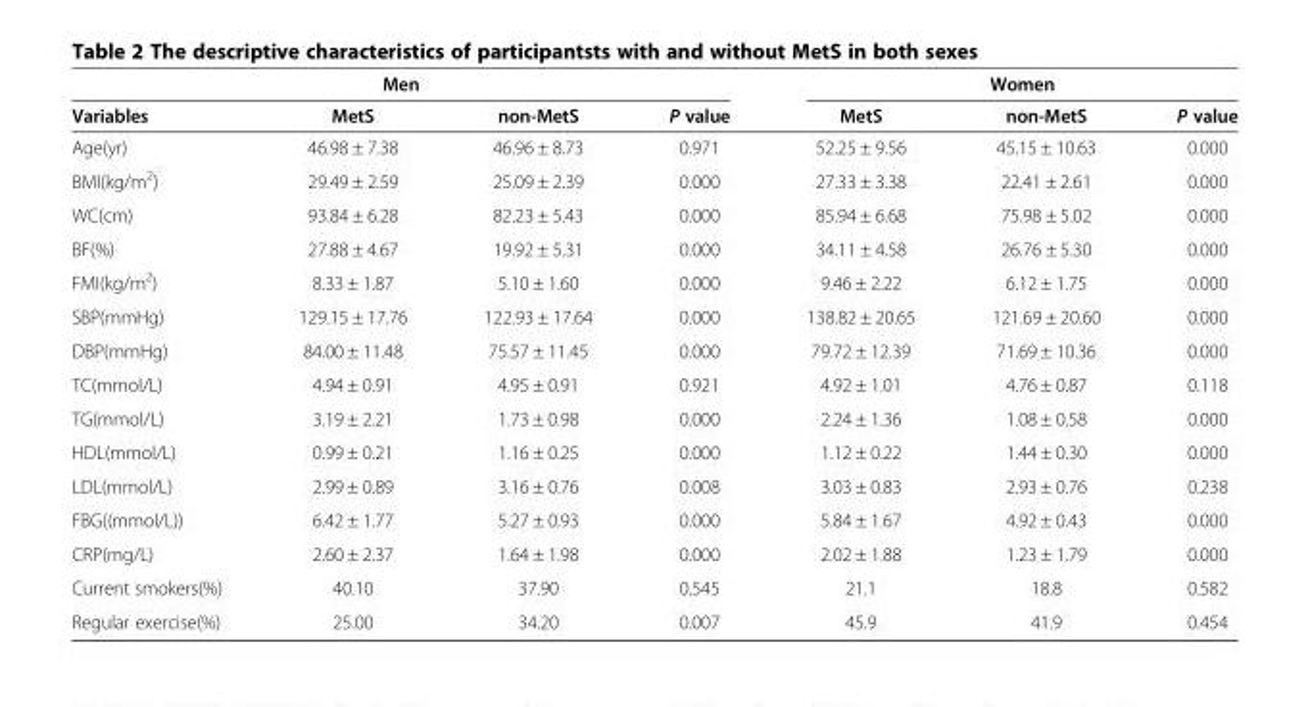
<table><thead><tr><td colspan="4">Men</td><td colspan="3">Women</td></tr><tr><td>Variables</td><td>MetS</td><td>non-MetS</td><td>P value</td><td>MetS</td><td>non-MetS</td><td>P value</td></tr></thead><tbody><tr><td>Age(yr)</td><td>46.98 ± 7.38</td><td>46.96 ± 8.73</td><td>0.971</td><td>52.25 ± 9.56</td><td>45.15 ± 10.63</td><td>0.000</td></tr><tr><td>BMI(kg/m<sup>2</sup>)</td><td>29.49 ± 2.59</td><td>25.09 ± 2.39</td><td>0.000</td><td>27.33 ± 3.38</td><td>22.41 ± 2.61</td><td>0.000</td></tr><tr><td>WC(cm)</td><td>93.84 ± 6.28</td><td>82.23 ± 5.43</td><td>0.000</td><td>85.94 ± 6.68</td><td>75.98 ± 5.02</td><td>0.000</td></tr><tr><td>BF(%)</td><td>27.88 ± 4.67</td><td>19.92 ± 5.31</td><td>0.000</td><td>34.11 ± 4.58</td><td>26.76 ± 5.30</td><td>0.000</td></tr><tr><td>FMI(kg/m<sup>2</sup>)</td><td>8.33 ± 1.87</td><td>5.10 ± 1.60</td><td>0.000</td><td>9.46 ± 2.22</td><td>6.12 ± 1.75</td><td>0.000</td></tr><tr><td>SBP(mmHg)</td><td>129.15 ± 17.76</td><td>122.93 ± 17.64</td><td>0.000</td><td>138.82 ± 20.65</td><td>121.69 ± 20.60</td><td>0.000</td></tr><tr><td>DBP(mmHg)</td><td>84.00 ± 11.48</td><td>75.57 ± 11.45</td><td>0.000</td><td>79.72 ± 12.39</td><td>71.69 ± 10.36</td><td>0.000</td></tr><tr><td>TC(mmol/L)</td><td>4.94 ± 0.91</td><td>4.95 ± 0.91</td><td>0.921</td><td>4.92 ± 1.01</td><td>4.76 ± 0.87</td><td>0.118</td></tr><tr><td>TG(mmol/L)</td><td>3.19 ± 2.21</td><td>1.73 ± 0.98</td><td>0.000</td><td>2.24 ± 1.36</td><td>1.08 ± 0.58</td><td>0.000</td></tr><tr><td>HDL(mmol/L)</td><td>0.99 ± 0.21</td><td>1.16 ± 0.25</td><td>0.000</td><td>1.12 ± 0.22</td><td>1.44 ± 0.30</td><td>0.000</td></tr><tr><td>LDL(mmol/L)</td><td>2.99 ± 0.89</td><td>3.16 ± 0.76</td><td>0.008</td><td>3.03 ± 0.83</td><td>2.93 ± 0.76</td><td>0.238</td></tr><tr><td>FBG((mmol/L))</td><td>6.42 ± 1.77</td><td>5.27 ± 0.93</td><td>0.000</td><td>5.84 ± 1.67</td><td>4.92 ± 0.43</td><td>0.000</td></tr><tr><td>CRP(mg/L)</td><td>2.60 ± 2.37</td><td>1.64 ± 1.98</td><td>0.000</td><td>2.02 ± 1.88</td><td>1.23 ± 1.79</td><td>0.000</td></tr><tr><td>Current smokers(%)</td><td>40.10</td><td>37.90</td><td>0.545</td><td>21.1</td><td>18.8</td><td>0.582</td></tr><tr><td>Regular exercise(%)</td><td>25.00</td><td>34.20</td><td>0.007</td><td>45.9</td><td>41.9</td><td>0.454</td></tr></tbody></table>